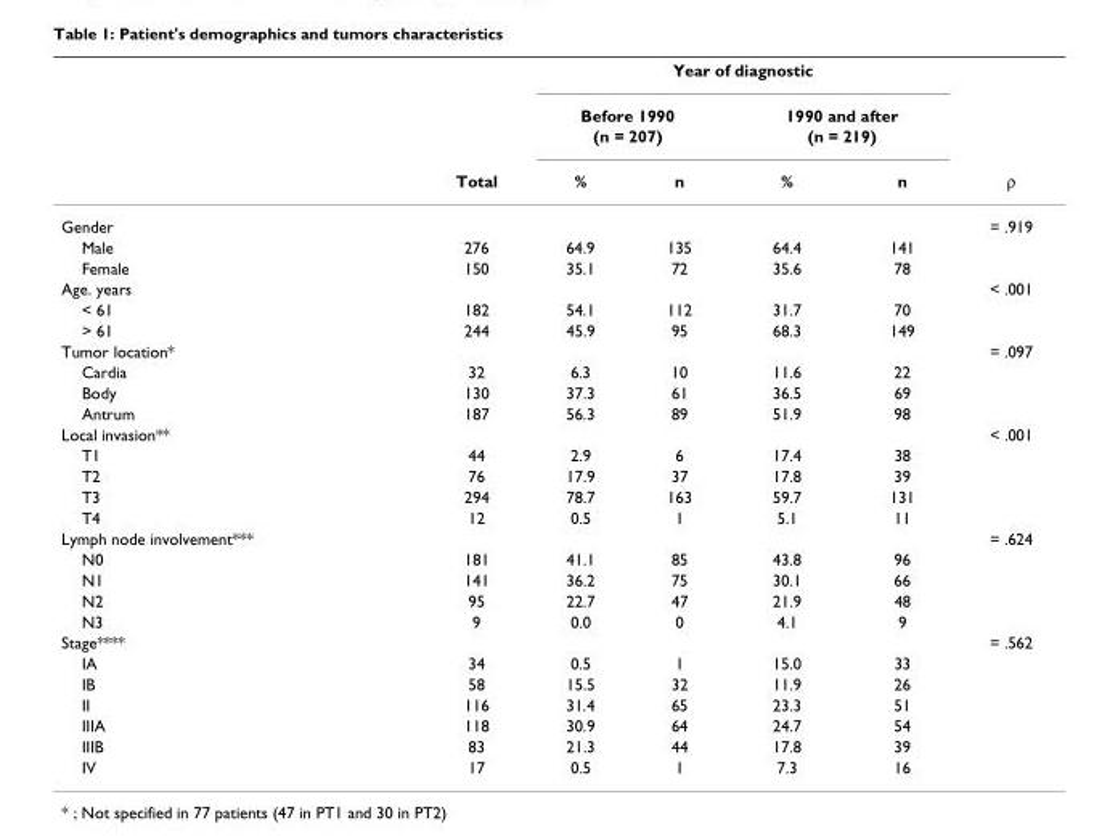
<table><thead><tr><td rowspan="4"></td><td rowspan="4">Total</td><td colspan="4">Year of diagnostic</td><td rowspan="4">ρ</td></tr><tr><td rowspan="2" colspan="2">Before 1990 (n = 207)</td><td rowspan="2" colspan="2">1990 and after (n = 219)</td></tr><tr></tr><tr><td>%</td><td>n</td><td>%</td><td>n</td></tr></thead><tbody><tr><td>Gender</td><td></td><td></td><td></td><td></td><td></td><td>= .919</td></tr><tr><td>Male</td><td>276</td><td>64.9</td><td>135</td><td>64.4</td><td>141</td><td></td></tr><tr><td>Female</td><td>150</td><td>35.1</td><td>72</td><td>35.6</td><td>78</td><td></td></tr><tr><td>Age. years</td><td></td><td></td><td></td><td></td><td></td><td>&lt; .001</td></tr><tr><td>&lt; 61</td><td>182</td><td>54.1</td><td>112</td><td>31.7</td><td>70</td><td></td></tr><tr><td>&gt; 61</td><td>244</td><td>45.9</td><td>95</td><td>68.3</td><td>149</td><td></td></tr><tr><td>Tumor location*</td><td></td><td></td><td></td><td></td><td></td><td>= .097</td></tr><tr><td>Cardia</td><td>32</td><td>6.3</td><td>10</td><td>11.6</td><td>22</td><td></td></tr><tr><td>Body</td><td>130</td><td>37.3</td><td>61</td><td>36.5</td><td>69</td><td></td></tr><tr><td>Antrum</td><td>187</td><td>56.3</td><td>89</td><td>51.9</td><td>98</td><td></td></tr><tr><td>Local invasion**</td><td></td><td></td><td></td><td></td><td></td><td>&lt; .001</td></tr><tr><td>T1</td><td>44</td><td>2.9</td><td>6</td><td>17.4</td><td>38</td><td></td></tr><tr><td>T2</td><td>76</td><td>17.9</td><td>37</td><td>17.8</td><td>39</td><td></td></tr><tr><td>T3</td><td>294</td><td>78.7</td><td>163</td><td>59.7</td><td>131</td><td></td></tr><tr><td>T4</td><td>12</td><td>0.5</td><td>1</td><td>5.1</td><td>11</td><td></td></tr><tr><td>Lymph node involvement***</td><td></td><td></td><td></td><td></td><td></td><td>= .624</td></tr><tr><td>N0</td><td>181</td><td>41.1</td><td>85</td><td>43.8</td><td>96</td><td></td></tr><tr><td>N1</td><td>141</td><td>36.2</td><td>75</td><td>30.1</td><td>66</td><td></td></tr><tr><td>N2</td><td>95</td><td>22.7</td><td>47</td><td>21.9</td><td>48</td><td></td></tr><tr><td>N3</td><td>9</td><td>0.0</td><td>0</td><td>4.1</td><td>9</td><td></td></tr><tr><td>Stage****</td><td></td><td></td><td></td><td></td><td></td><td>= .562</td></tr><tr><td>IA</td><td>34</td><td>0.5</td><td>1</td><td>15.0</td><td>33</td><td></td></tr><tr><td>IB</td><td>58</td><td>15.5</td><td>32</td><td>11.9</td><td>26</td><td></td></tr><tr><td>II</td><td>116</td><td>31.4</td><td>65</td><td>23.3</td><td>51</td><td></td></tr><tr><td>IIIA</td><td>118</td><td>30.9</td><td>64</td><td>24.7</td><td>54</td><td></td></tr><tr><td>IIIB</td><td>83</td><td>21.3</td><td>44</td><td>17.8</td><td>39</td><td></td></tr><tr><td>IV</td><td>17</td><td>0.5</td><td>1</td><td>7.3</td><td>16</td><td></td></tr></tbody></table>